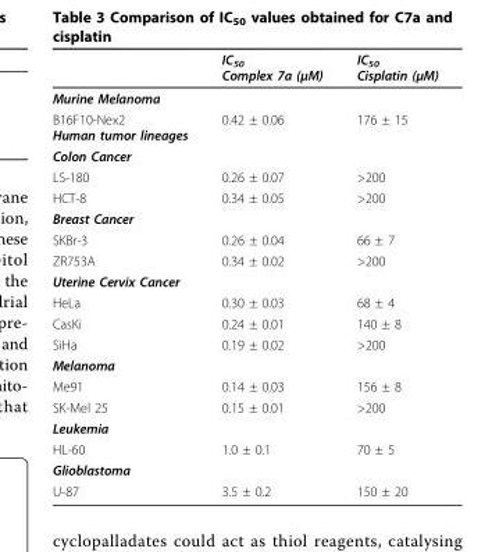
<table><thead><tr><td></td><td>IC<sub>50</sub> Complex 7a (μM)</td><td>IC<sub>50</sub> Cisplatin (μM)</td></tr></thead><tbody><tr><td colspan="3">Murine Melanoma</td></tr><tr><td>B16F10-Nex2 Human tumor lineages</td><td>0.42 ± 0.06</td><td>176 ± 15</td></tr><tr><td colspan="3">Colon Cancer</td></tr><tr><td>LS-180</td><td>0.26 ± 0.07</td><td>&gt;200</td></tr><tr><td>HCT-8</td><td>0.34 ± 0.05</td><td>&gt;200</td></tr><tr><td colspan="3">Breast Cancer</td></tr><tr><td>SKBr-3</td><td>0.26 ± 0.04</td><td>66 ± 7</td></tr><tr><td>ZR753A</td><td>0.34 ± 0.02</td><td>&gt;200</td></tr><tr><td colspan="3">Uterine Cervix Cancer</td></tr><tr><td>HeLa</td><td>0.30 ± 0.03</td><td>68 ± 4</td></tr><tr><td>CasKi</td><td>0.24 ± 0.01</td><td>140 ± 8</td></tr><tr><td>SiHa</td><td>0.19 ± 0.02</td><td>&gt;200</td></tr><tr><td colspan="3">Melanoma</td></tr><tr><td>Me91</td><td>0.14 ± 0.03</td><td>156 ± 8</td></tr><tr><td>SK-Mel 25</td><td>0.15 ± 0.01</td><td>&gt;200</td></tr><tr><td colspan="3">Leukemia</td></tr><tr><td>HL-60</td><td>1.0 ± 0.1</td><td>70 ± 5</td></tr><tr><td colspan="3">Glioblastoma</td></tr><tr><td>U-87</td><td>3.5 ± 0.2</td><td>150 ± 20</td></tr></tbody></table>